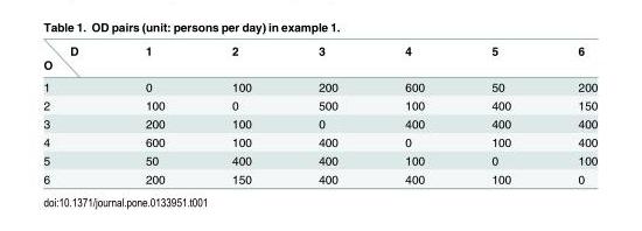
<table><thead><tr><td rowspan="2">D O</td><td rowspan="2">1</td><td rowspan="2">2</td><td rowspan="2">3</td><td rowspan="2">4</td><td rowspan="2">5</td><td rowspan="2">6</td></tr><tr></tr></thead><tbody><tr><td>1</td><td>0</td><td>100</td><td>200</td><td>600</td><td>50</td><td>200</td></tr><tr><td>2</td><td>100</td><td>0</td><td>500</td><td>100</td><td>400</td><td>150</td></tr><tr><td>3</td><td>200</td><td>100</td><td>0</td><td>400</td><td>400</td><td>400</td></tr><tr><td>4</td><td>600</td><td>100</td><td>400</td><td>0</td><td>100</td><td>400</td></tr><tr><td>5</td><td>50</td><td>400</td><td>400</td><td>100</td><td>0</td><td>100</td></tr><tr><td>6</td><td>200</td><td>150</td><td>400</td><td>400</td><td>100</td><td>0</td></tr></tbody></table>